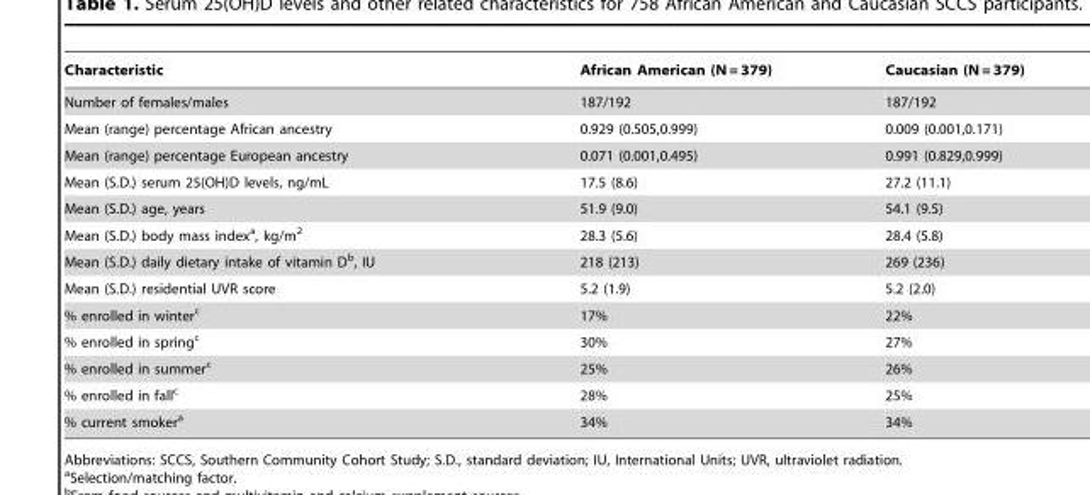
<table><thead><tr><td>Characteristic</td><td>African American (N = 379)</td><td>Caucasian (N = 379)</td></tr></thead><tbody><tr><td>Number of females/males</td><td>187/192</td><td>187/192</td></tr><tr><td>Mean (range) percentage African ancestry</td><td>0.929 (0.505,0.999)</td><td>0.009 (0.001,0.171)</td></tr><tr><td>Mean (range) percentage European ancestry</td><td>0.071 (0.001,0.495)</td><td>0.991 (0.829,0.999)</td></tr><tr><td>Mean (S.D.) serum 25(OH)D levels, ng/mL</td><td>17.5 (8.6)</td><td>27.2 (11.1)</td></tr><tr><td>Mean (S.D.) age, years</td><td>51.9 (9.0)</td><td>54.1 (9.5)</td></tr><tr><td>Mean (S.D.) body mass index<sup>a</sup>, kg/m<sup>2</sup></td><td>28.3 (5.6)</td><td>28.4 (5.8)</td></tr><tr><td>Mean (S.D.) daily dietary intake of vitamin D<sup>b</sup>, IU</td><td>218 (213)</td><td>269 (236)</td></tr><tr><td>Mean (S.D.) residential UVR score</td><td>5.2 (1.9)</td><td>5.2 (2.0)</td></tr><tr><td>% enrolled in winter<sup>c</sup></td><td>17%</td><td>22%</td></tr><tr><td>% enrolled in spring<sup>c</sup></td><td>30%</td><td>27%</td></tr><tr><td>% enrolled in summer<sup>c</sup></td><td>25%</td><td>26%</td></tr><tr><td>% enrolled in fall<sup>c</sup></td><td>28%</td><td>25%</td></tr><tr><td>% current smoker<sup>a</sup></td><td>34%</td><td>34%</td></tr></tbody></table>